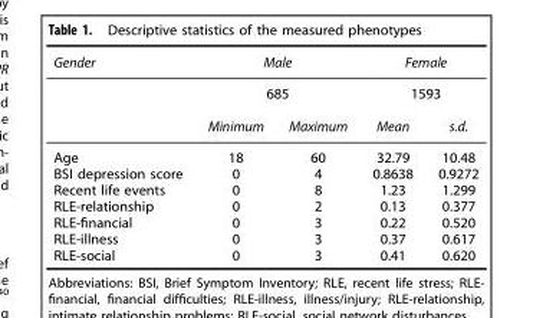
<table><thead><tr><td rowspan="3">Gender</td><td rowspan="2" colspan="2">Male 685</td><td rowspan="2" colspan="2">Female 1593</td></tr><tr></tr><tr><td>Minimum</td><td>Maximum</td><td>Mean</td><td>s.d.</td></tr></thead><tbody><tr><td>Age</td><td>18</td><td>60</td><td>32.79</td><td>10.48</td></tr><tr><td>BSI depression score</td><td>0</td><td>4</td><td>0.8638</td><td>0.9272</td></tr><tr><td>Recent life events</td><td>0</td><td>8</td><td>1.23</td><td>1.299</td></tr><tr><td>RLE-relationship</td><td>0</td><td>2</td><td>0.13</td><td>0.377</td></tr><tr><td>RLE-financial</td><td>0</td><td>3</td><td>0.22</td><td>0.520</td></tr><tr><td>RLE-illness</td><td>0</td><td>3</td><td>0.37</td><td>0.617</td></tr><tr><td>RLE-social</td><td>0</td><td>3</td><td>0.41</td><td>0.620</td></tr></tbody></table>